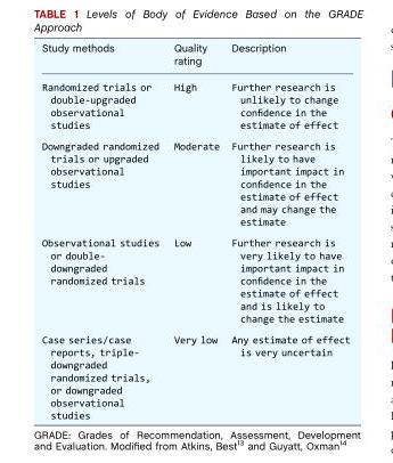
<table><thead><tr><td>Study methods</td><td>Quality rating</td><td>Description</td></tr></thead><tbody><tr><td>Randomized trials or double-upgraded observational studies</td><td>High</td><td>Further research is unlikely to change confidence in the estimate of effect</td></tr><tr><td>Downgraded randomized trials or upgraded observational studies</td><td>Moderate</td><td>Further research is likely to have important impact in confidence in the estimate of effect and may change the estimate</td></tr><tr><td>Observational studies or double- downgraded randomized trials</td><td>Low</td><td>Further research is very likely to have important impact in confidence in the estimate of effect and is likely to change the estimate</td></tr><tr><td>Case series/case reports, triple- downgraded randomized trials, or downgraded observational studies</td><td>Very low</td><td>Any estimate of effect is very uncertain</td></tr></tbody></table>